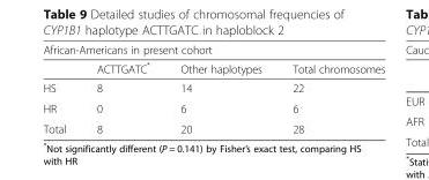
<table><thead><tr><td colspan="4">African-Americans in present cohort</td></tr><tr><td></td><td>ACTTGATC*</td><td>Other haplotypes</td><td>Total chromosomes</td></tr></thead><tbody><tr><td>HS</td><td>8</td><td>14</td><td>22</td></tr><tr><td>HR</td><td>0</td><td>6</td><td>6</td></tr><tr><td>Total</td><td>8</td><td>20</td><td>28</td></tr></tbody></table>